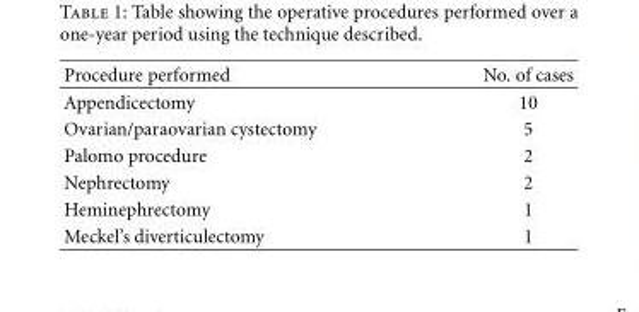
<table><thead><tr><td>Procedure performed</td><td>No. of cases</td></tr></thead><tbody><tr><td>Appendicectomy</td><td>10</td></tr><tr><td>Ovarian/paraovarian cystectomy</td><td>5</td></tr><tr><td>Palomo procedure</td><td>2</td></tr><tr><td>Nephrectomy</td><td>2</td></tr><tr><td>Heminephrectomy</td><td>1</td></tr><tr><td>Meckel’s diverticulectomy</td><td>1</td></tr></tbody></table>